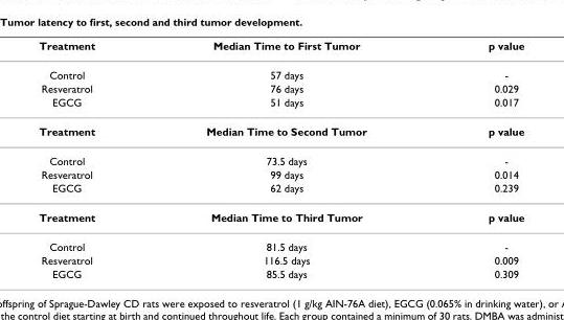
<table><thead><tr><td>Treatment</td><td>Median Time to First Tumor</td><td>p value</td></tr></thead><tbody><tr><td>Control</td><td>57 days</td><td>-</td></tr><tr><td>Resveratrol</td><td>76 days</td><td>0.029</td></tr><tr><td>EGCG</td><td>51 days</td><td>0.017</td></tr><tr><td>Treatment</td><td>Median Time to Second Tumor</td><td>p value</td></tr><tr><td>Control</td><td>73.5 days</td><td>-</td></tr><tr><td>Resveratrol</td><td>99 days</td><td>0.014</td></tr><tr><td>EGCG</td><td>62 days</td><td>0.239</td></tr><tr><td>Treatment</td><td>Median Time to Third Tumor</td><td>p value</td></tr><tr><td>Control</td><td>81.5 days</td><td>-</td></tr><tr><td>Resveratrol</td><td>116.5 days</td><td>0.009</td></tr><tr><td>EGCG</td><td>85.5 days</td><td>0.309</td></tr></tbody></table>